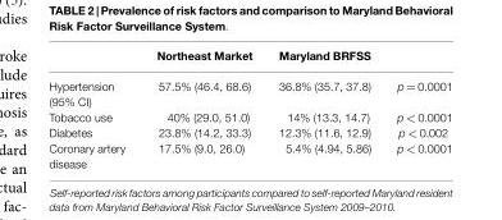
<table><thead><tr><td></td><td>Northeast Market</td><td>Maryland BRFSS</td><td></td></tr></thead><tbody><tr><td>Hypertension (95% CI)</td><td>57.5% (46.4, 68.6)</td><td>36.8% (35.7, 37.8)</td><td>p = 0.0001</td></tr><tr><td>Tobacco use</td><td>40% (29.0, 51.0)</td><td>14% (13.3, 14.7)</td><td>p &lt; 0.0001</td></tr><tr><td>Diabetes</td><td>23.8% (14.2, 33.3)</td><td>12.3% (11.6, 12.9)</td><td>p &lt; 0.002</td></tr><tr><td>Coronary artery disease</td><td>17.5% (9.0, 26.0)</td><td>5.4% (4.94, 5.86)</td><td>p &lt; 0.0001</td></tr></tbody></table>